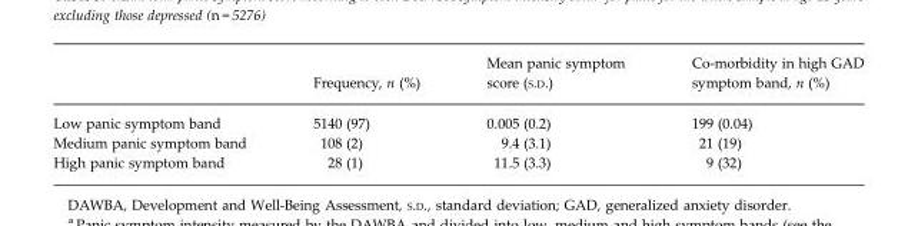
<table><thead><tr><td></td><td>Frequency, n (%)</td><td>Mean panic symptom score (S.D.)</td><td>Co-morbidity in high GAD symptom band, n (%)</td></tr></thead><tbody><tr><td>Low panic symptom band</td><td>5140 (97)</td><td>0.005 (0.2)</td><td>199 (0.04)</td></tr><tr><td>Medium panic symptom band</td><td>108 (2)</td><td>9.4 (3.1)</td><td>21 (19)</td></tr><tr><td>High panic symptom band</td><td>28 (1)</td><td>11.5 (3.3)</td><td>9 (32)</td></tr></tbody></table>